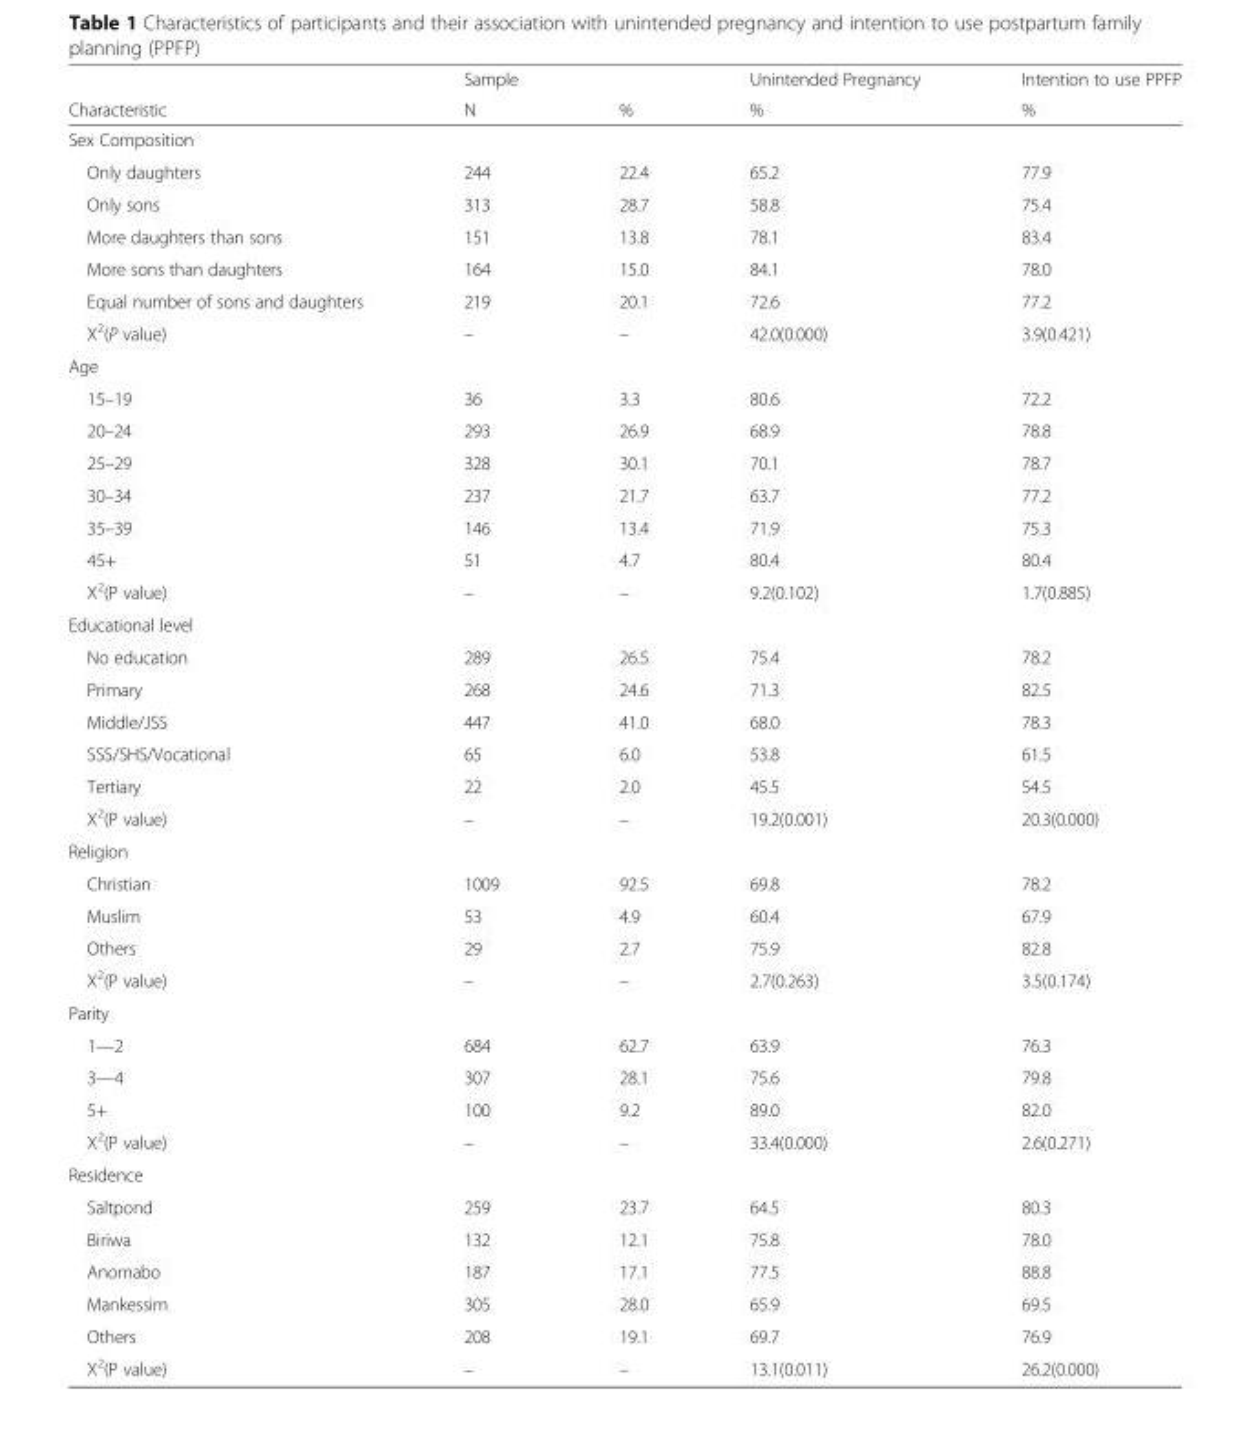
<table><thead><tr><td rowspan="2">Characteristic</td><td rowspan="2">Sample N</td><td rowspan="2">%</td><td rowspan="2">Unintended Pregnancy %</td><td rowspan="2">Intention to use PPFP %</td></tr><tr></tr></thead><tbody><tr><td colspan="5">Sex Composition</td></tr><tr><td>Only daughters</td><td>244</td><td>22.4</td><td>65.2</td><td>77.9</td></tr><tr><td>Only sons</td><td>313</td><td>28.7</td><td>58.8</td><td>75.4</td></tr><tr><td>More daughters than sons</td><td>151</td><td>13.8</td><td>78.1</td><td>83.4</td></tr><tr><td>More sons than daughters</td><td>164</td><td>15.0</td><td>84.1</td><td>78.0</td></tr><tr><td>Equal number of sons and daughters</td><td>219</td><td>20.1</td><td>72.6</td><td>77.2</td></tr><tr><td>X<sup>2</sup>(P value)</td><td>–</td><td>–</td><td>42.0(0.000)</td><td>3.9(0.421)</td></tr><tr><td colspan="5">Age</td></tr><tr><td>15–19</td><td>36</td><td>3.3</td><td>80.6</td><td>72.2</td></tr><tr><td>20–24</td><td>293</td><td>26.9</td><td>68.9</td><td>78.8</td></tr><tr><td>25–29</td><td>328</td><td>30.1</td><td>70.1</td><td>78.7</td></tr><tr><td>30–34</td><td>237</td><td>21.7</td><td>63.7</td><td>77.2</td></tr><tr><td>35–39</td><td>146</td><td>13.4</td><td>71.9</td><td>75.3</td></tr><tr><td>45+</td><td>51</td><td>4.7</td><td>80.4</td><td>80.4</td></tr><tr><td>X<sup>2</sup>(P value)</td><td>–</td><td>–</td><td>9.2(0.102)</td><td>1.7(0.885)</td></tr><tr><td colspan="5">Educational level</td></tr><tr><td>No education</td><td>289</td><td>26.5</td><td>75.4</td><td>78.2</td></tr><tr><td>Primary</td><td>268</td><td>24.6</td><td>71.3</td><td>82.5</td></tr><tr><td>Middle/JSS</td><td>447</td><td>41.0</td><td>68.0</td><td>78.3</td></tr><tr><td>SSS/SHS/Vocational</td><td>65</td><td>6.0</td><td>53.8</td><td>61.5</td></tr><tr><td>Tertiary</td><td>22</td><td>2.0</td><td>45.5</td><td>54.5</td></tr><tr><td>X<sup>2</sup>(P value)</td><td>–</td><td>–</td><td>19.2(0.001)</td><td>20.3(0.000)</td></tr><tr><td colspan="5">Religion</td></tr><tr><td>Christian</td><td>1009</td><td>92.5</td><td>69.8</td><td>78.2</td></tr><tr><td>Muslim</td><td>53</td><td>4.9</td><td>60.4</td><td>67.9</td></tr><tr><td>Others</td><td>29</td><td>2.7</td><td>75.9</td><td>82.8</td></tr><tr><td>X<sup>2</sup>(P value)</td><td>–</td><td>–</td><td>2.7(0.263)</td><td>3.5(0.174)</td></tr><tr><td colspan="5">Parity</td></tr><tr><td>1—2</td><td>684</td><td>62.7</td><td>63.9</td><td>76.3</td></tr><tr><td>3—4</td><td>307</td><td>28.1</td><td>75.6</td><td>79.8</td></tr><tr><td>5+</td><td>100</td><td>9.2</td><td>89.0</td><td>82.0</td></tr><tr><td>X<sup>2</sup>(P value)</td><td>–</td><td>–</td><td>33.4(0.000)</td><td>2.6(0.271)</td></tr><tr><td colspan="5">Residence</td></tr><tr><td>Saltpond</td><td>259</td><td>23.7</td><td>64.5</td><td>80.3</td></tr><tr><td>Biriwa</td><td>132</td><td>12.1</td><td>75.8</td><td>78.0</td></tr><tr><td>Anomabo</td><td>187</td><td>17.1</td><td>77.5</td><td>88.8</td></tr><tr><td>Mankessim</td><td>305</td><td>28.0</td><td>65.9</td><td>69.5</td></tr><tr><td>Others</td><td>208</td><td>19.1</td><td>69.7</td><td>76.9</td></tr><tr><td>X<sup>2</sup>(P value)</td><td>–</td><td>–</td><td>13.1(0.011)</td><td>26.2(0.000)</td></tr></tbody></table>